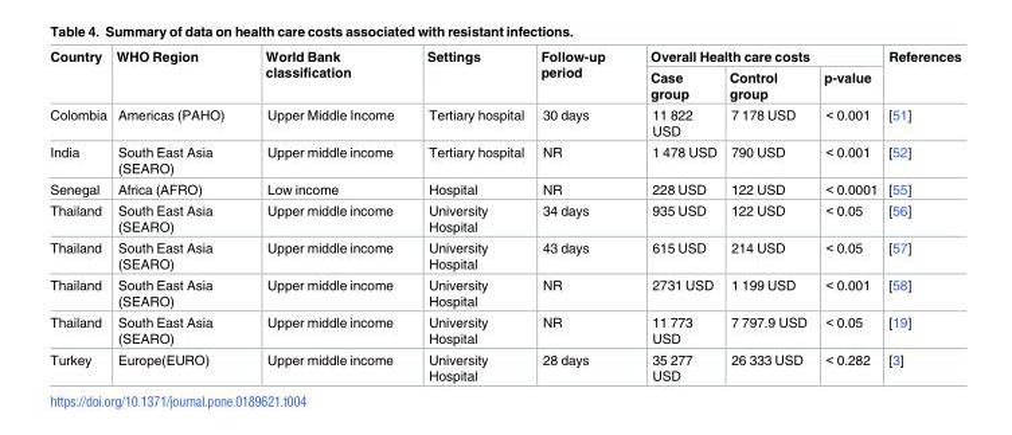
<table><thead><tr><td rowspan="2">Country</td><td rowspan="2">WHO Region</td><td rowspan="2">World Bank classification</td><td rowspan="2">Settings</td><td rowspan="2">Follow-up period</td><td colspan="3">Overall Health care costs</td><td rowspan="2">References</td></tr><tr><td>Case group</td><td>Control group</td><td>p-value</td></tr></thead><tbody><tr><td>Colombia</td><td>Americas (PAHO)</td><td>Upper Middle Income</td><td>Tertiary hospital</td><td>30 days</td><td>11 822 USD</td><td>7 178 USD</td><td>&lt; 0.001</td><td>[51]</td></tr><tr><td>India</td><td>South East Asia (SEARO)</td><td>Upper middle income</td><td>Tertiary hospital</td><td>NR</td><td>1 478 USD</td><td>790 USD</td><td>&lt; 0.001</td><td>[52]</td></tr><tr><td>Senegal</td><td>Africa (AFRO)</td><td>Low income</td><td>Hospital</td><td>NR</td><td>228 USD</td><td>122 USD</td><td>&lt; 0.0001</td><td>[55]</td></tr><tr><td>Thailand</td><td>South East Asia (SEARO)</td><td>Upper middle income</td><td>University Hospital</td><td>34 days</td><td>935 USD</td><td>122 USD</td><td>&lt; 0.05</td><td>[56]</td></tr><tr><td>Thailand</td><td>South East Asia (SEARO)</td><td>Upper middle income</td><td>University Hospital</td><td>43 days</td><td>615 USD</td><td>214 USD</td><td>&lt; 0.05</td><td>[57]</td></tr><tr><td>Thailand</td><td>South East Asia (SEARO)</td><td>Upper middle income</td><td>University Hospital</td><td>NR</td><td>2731 USD</td><td>1 199 USD</td><td>&lt; 0.001</td><td>[58]</td></tr><tr><td>Thailand</td><td>South East Asia (SEARO)</td><td>Upper middle income</td><td>University Hospital</td><td>NR</td><td>11 773 USD</td><td>7 797.9 USD</td><td>&lt; 0.05</td><td>[19]</td></tr><tr><td>Turkey</td><td>Europe(EURO)</td><td>Upper middle income</td><td>University Hospital</td><td>28 days</td><td>35 277 USD</td><td>26 333 USD</td><td>&lt; 0.282</td><td>[3]</td></tr></tbody></table>